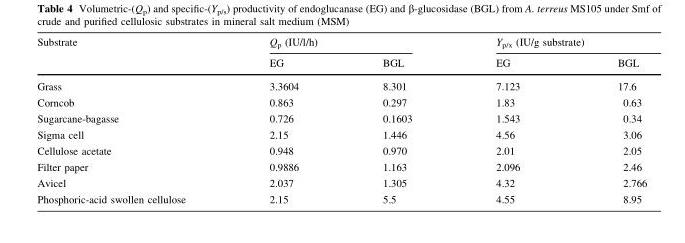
<table><thead><tr><td rowspan="2">Substrate</td><td colspan="2">Q<sub>p</sub> (IU/l/h)</td><td colspan="2">Y<sub>p/x</sub> (IU/g substrate)</td></tr><tr><td>EG</td><td>BGL</td><td>EG</td><td>BGL</td></tr></thead><tbody><tr><td>Grass</td><td>3.3604</td><td>8.301</td><td>7.123</td><td>17.6</td></tr><tr><td>Corncob</td><td>0.863</td><td>0.297</td><td>1.83</td><td>0.63</td></tr><tr><td>Sugarcane-bagasse</td><td>0.726</td><td>0.1603</td><td>1.543</td><td>0.34</td></tr><tr><td>Sigma cell</td><td>2.15</td><td>1.446</td><td>4.56</td><td>3.06</td></tr><tr><td>Cellulose acetate</td><td>0.948</td><td>0.970</td><td>2.01</td><td>2.05</td></tr><tr><td>Filter paper</td><td>0.9886</td><td>1.163</td><td>2.096</td><td>2.46</td></tr><tr><td>Avicel</td><td>2.037</td><td>1.305</td><td>4.32</td><td>2.766</td></tr><tr><td>Phosphoric-acid swollen cellulose</td><td>2.15</td><td>5.5</td><td>4.55</td><td>8.95</td></tr></tbody></table>